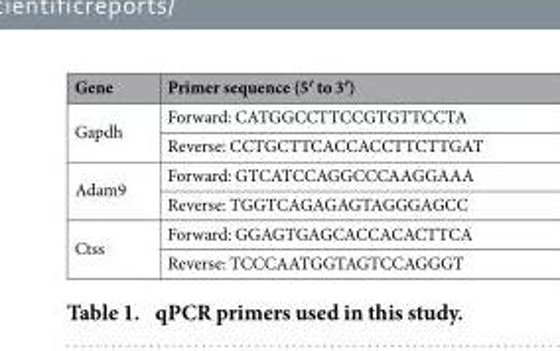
<table><thead><tr><td>Gene</td><td>Primer sequence (5′ to 3′)</td></tr></thead><tbody><tr><td rowspan="2">Gapdh</td><td>Forward: CATGGCCTTCCGTGTTCCTA</td></tr><tr><td>Reverse: CCTGCTTCACCACCTTCTTGAT</td></tr><tr><td rowspan="2">Adam9</td><td>Forward: GTCATCCAGGCCCAAGGAAA</td></tr><tr><td>Reverse: TGGTCAGAGAGTAGGGAGCC</td></tr><tr><td rowspan="2">Ctss</td><td>Forward: GGAGTGAGCACCACACTTCA</td></tr><tr><td>Reverse: TCCCAATGGTAGTCCAGGGT</td></tr></tbody></table>